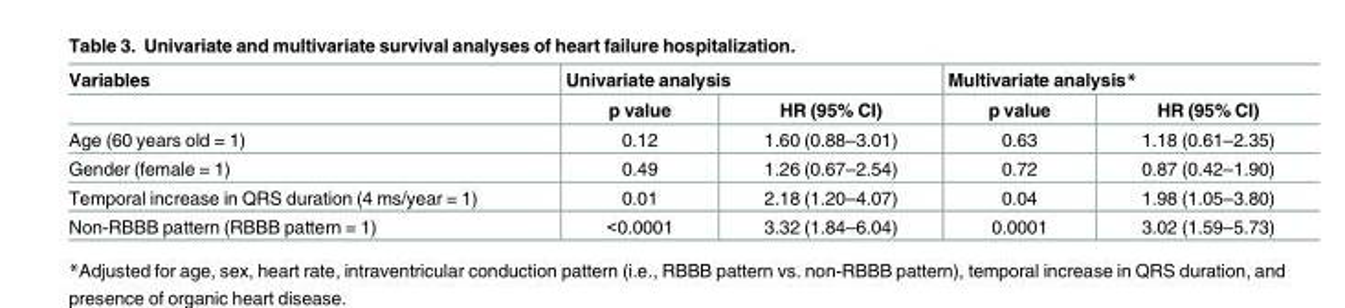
<table><thead><tr><td rowspan="2">Variables</td><td colspan="2">Univariate analysis</td><td colspan="2">Multivariate analysis*</td></tr><tr><td>p value</td><td>HR (95% CI)</td><td>p value</td><td>HR (95% CI)</td></tr></thead><tbody><tr><td>Age (60 years old = 1)</td><td>0.12</td><td>1.60 (0.88–3.01)</td><td>0.63</td><td>1.18 (0.61–2.35)</td></tr><tr><td>Gender (female = 1)</td><td>0.49</td><td>1.26 (0.67–2.54)</td><td>0.72</td><td>0.87 (0.42–1.90)</td></tr><tr><td>Temporal increase in QRS duration (4 ms/year = 1)</td><td>0.01</td><td>2.18 (1.20–4.07)</td><td>0.04</td><td>1.98 (1.05–3.80)</td></tr><tr><td>Non-RBBB pattern (RBBB pattern = 1)</td><td>&lt;0.0001</td><td>3.32 (1.84–6.04)</td><td>0.0001</td><td>3.02 (1.59–5.73)</td></tr></tbody></table>